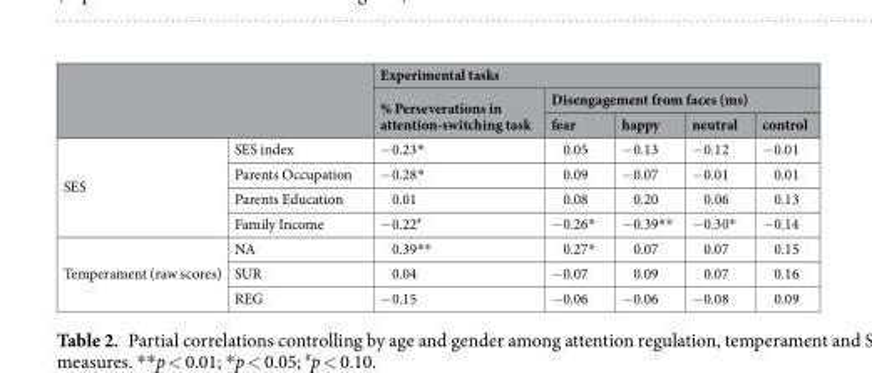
<table><thead><tr><td rowspan="3"></td><td rowspan="3"></td><td colspan="5">Experimental tasks</td></tr><tr><td rowspan="2">% Perseverations in attention-switching task</td><td colspan="4">Disengagement from faces (ms)</td></tr><tr><td>fear</td><td>happy</td><td>neutral</td><td>control</td></tr></thead><tbody><tr><td rowspan="4">SES</td><td>SES index</td><td>−0.23*</td><td>0.05</td><td>−0.13</td><td>−0.12</td><td>−0.01</td></tr><tr><td>Parents Occupation</td><td>−0.28*</td><td>0.09</td><td>−0.07</td><td>−0.01</td><td>0.01</td></tr><tr><td>Parents Education</td><td>0.01</td><td>0.08</td><td>0.20</td><td>0.06</td><td>0.13</td></tr><tr><td>Family Income</td><td>−0.22<sup>#</sup></td><td>−0.26*</td><td>−0.39**</td><td>−0.30*</td><td>−0.14</td></tr><tr><td rowspan="3">Temperament (raw scores)</td><td>NA</td><td>0.39**</td><td>0.27*</td><td>0.07</td><td>0.07</td><td>0.15</td></tr><tr><td>SUR</td><td>0.04</td><td>−0.07</td><td>0.09</td><td>0.07</td><td>0.16</td></tr><tr><td>REG</td><td>−0.15</td><td>−0.06</td><td>−0.06</td><td>−0.08</td><td>0.09</td></tr></tbody></table>